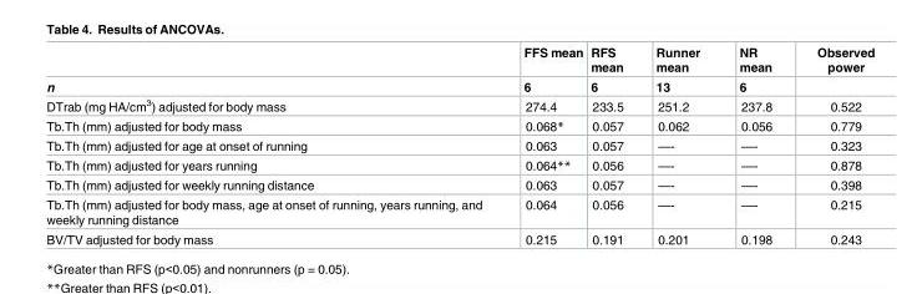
<table><thead><tr><td rowspan="2">n</td><td rowspan="2">FFS mean 6</td><td rowspan="2">RFS mean 6</td><td rowspan="2">Runner mean 13</td><td rowspan="2">NR mean 6</td><td rowspan="2">Observed power</td></tr><tr></tr></thead><tbody><tr><td>DTrab (mg HA/cm<sup>3</sup>) adjusted for body mass</td><td>274.4</td><td>233.5</td><td>251.2</td><td>237.8</td><td>0.522</td></tr><tr><td>Tb.Th (mm) adjusted for body mass</td><td>0.068*</td><td>0.057</td><td>0.062</td><td>0.056</td><td>0.779</td></tr><tr><td>Tb.Th (mm) adjusted for age at onset of running</td><td>0.063</td><td>0.057</td><td>—-</td><td>—-</td><td>0.323</td></tr><tr><td>Tb.Th (mm) adjusted for years running</td><td>0.064**</td><td>0.056</td><td>—-</td><td>—-</td><td>0.878</td></tr><tr><td>Tb.Th (mm) adjusted for weekly running distance</td><td>0.063</td><td>0.057</td><td>—-</td><td>—-</td><td>0.398</td></tr><tr><td>Tb.Th (mm) adjusted for body mass, age at onset of running, years running, and weekly running distance</td><td>0.064</td><td>0.056</td><td>—-</td><td>—-</td><td>0.215</td></tr><tr><td>BV/TV adjusted for body mass</td><td>0.215</td><td>0.191</td><td>0.201</td><td>0.198</td><td>0.243</td></tr></tbody></table>